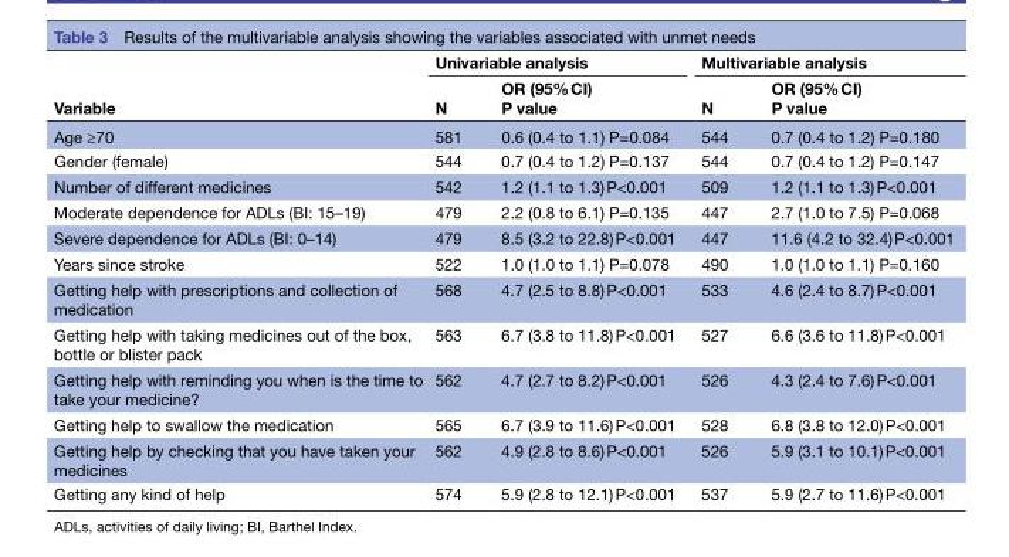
<table><thead><tr><td rowspan="2">Variable</td><td colspan="2">Univariable analysis</td><td colspan="2">Multivariable analysis</td></tr><tr><td>N</td><td>OR (95% CI) P value</td><td>N</td><td>OR (95% CI) P value</td></tr></thead><tbody><tr><td>Age ≥70</td><td>581</td><td>0.6 (0.4 to 1.1) P=0.084</td><td>544</td><td>0.7 (0.4 to 1.2) P=0.180</td></tr><tr><td>Gender (female)</td><td>544</td><td>0.7 (0.4 to 1.2) P=0.137</td><td>544</td><td>0.7 (0.4 to 1.2) P=0.147</td></tr><tr><td>Number of different medicines</td><td>542</td><td>1.2 (1.1 to 1.3) P&lt;0.001</td><td>509</td><td>1.2 (1.1 to 1.3) P&lt;0.001</td></tr><tr><td>Moderate dependence for ADLs (BI: 15–19)</td><td>479</td><td>2.2 (0.8 to 6.1) P=0.135</td><td>447</td><td>2.7 (1.0 to 7.5) P=0.068</td></tr><tr><td>Severe dependence for ADLs (BI: 0–14)</td><td>479</td><td>8.5 (3.2 to 22.8) P&lt;0.001</td><td>447</td><td>11.6 (4.2 to 32.4) P&lt;0.001</td></tr><tr><td>Years since stroke</td><td>522</td><td>1.0 (1.0 to 1.1) P=0.078</td><td>490</td><td>1.0 (1.0 to 1.1) P=0.160</td></tr><tr><td>Getting help with prescriptions and collection of medication</td><td>568</td><td>4.7 (2.5 to 8.8) P&lt;0.001</td><td>533</td><td>4.6 (2.4 to 8.7) P&lt;0.001</td></tr><tr><td>Getting help with taking medicines out of the box, bottle or blister pack</td><td>563</td><td>6.7 (3.8 to 11.8) P&lt;0.001</td><td>527</td><td>6.6 (3.6 to 11.8) P&lt;0.001</td></tr><tr><td>Getting help with reminding you when is the time to take your medicine?</td><td>562</td><td>4.7 (2.7 to 8.2) P&lt;0.001</td><td>526</td><td>4.3 (2.4 to 7.6) P&lt;0.001</td></tr><tr><td>Getting help to swallow the medication</td><td>565</td><td>6.7 (3.9 to 11.6) P&lt;0.001</td><td>528</td><td>6.8 (3.8 to 12.0) P&lt;0.001</td></tr><tr><td>Getting help by checking that you have taken your medicines</td><td>562</td><td>4.9 (2.8 to 8.6) P&lt;0.001</td><td>526</td><td>5.9 (3.1 to 10.1) P&lt;0.001</td></tr><tr><td>Getting any kind of help</td><td>574</td><td>5.9 (2.8 to 12.1) P&lt;0.001</td><td>537</td><td>5.9 (2.7 to 11.6) P&lt;0.001</td></tr></tbody></table>